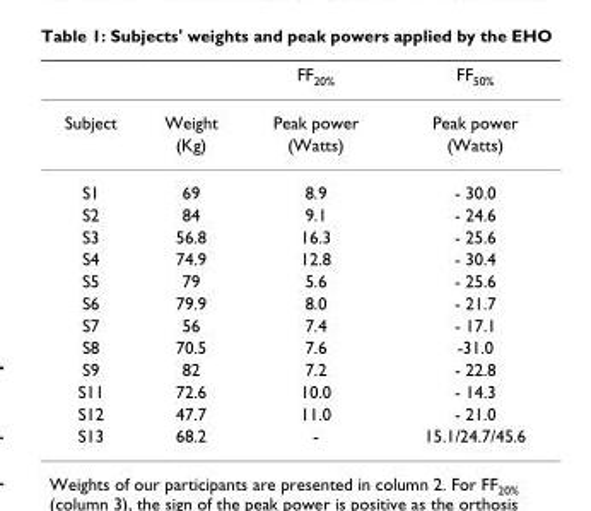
<table><thead><tr><td></td><td></td><td>FF<sub>20%</sub></td><td>FF<sub>50%</sub></td></tr></thead><tbody><tr><td rowspan="2">Subject</td><td>Weight</td><td>Peak power</td><td>Peak power</td></tr><tr><td>(Kg)</td><td>(Watts)</td><td>(Watts)</td></tr><tr><td>S1</td><td>69</td><td>8.9</td><td>- 30.0</td></tr><tr><td>S2</td><td>84</td><td>9.1</td><td>- 24.6</td></tr><tr><td>S3</td><td>56.8</td><td>16.3</td><td>- 25.6</td></tr><tr><td>S4</td><td>74.9</td><td>12.8</td><td>- 30.4</td></tr><tr><td>S5</td><td>79</td><td>5.6</td><td>- 25.6</td></tr><tr><td>S6</td><td>79.9</td><td>8.0</td><td>- 21.7</td></tr><tr><td>S7</td><td>56</td><td>7.4</td><td>- 17.1</td></tr><tr><td>S8</td><td>70.5</td><td>7.6</td><td>-31.0</td></tr><tr><td>S9</td><td>82</td><td>7.2</td><td>- 22.8</td></tr><tr><td>S11</td><td>72.6</td><td>10.0</td><td>- 14.3</td></tr><tr><td>S12</td><td>47.7</td><td>11.0</td><td>- 21.0</td></tr><tr><td>S13</td><td>68.2</td><td>-</td><td>15.1/24.7/45.6</td></tr></tbody></table>